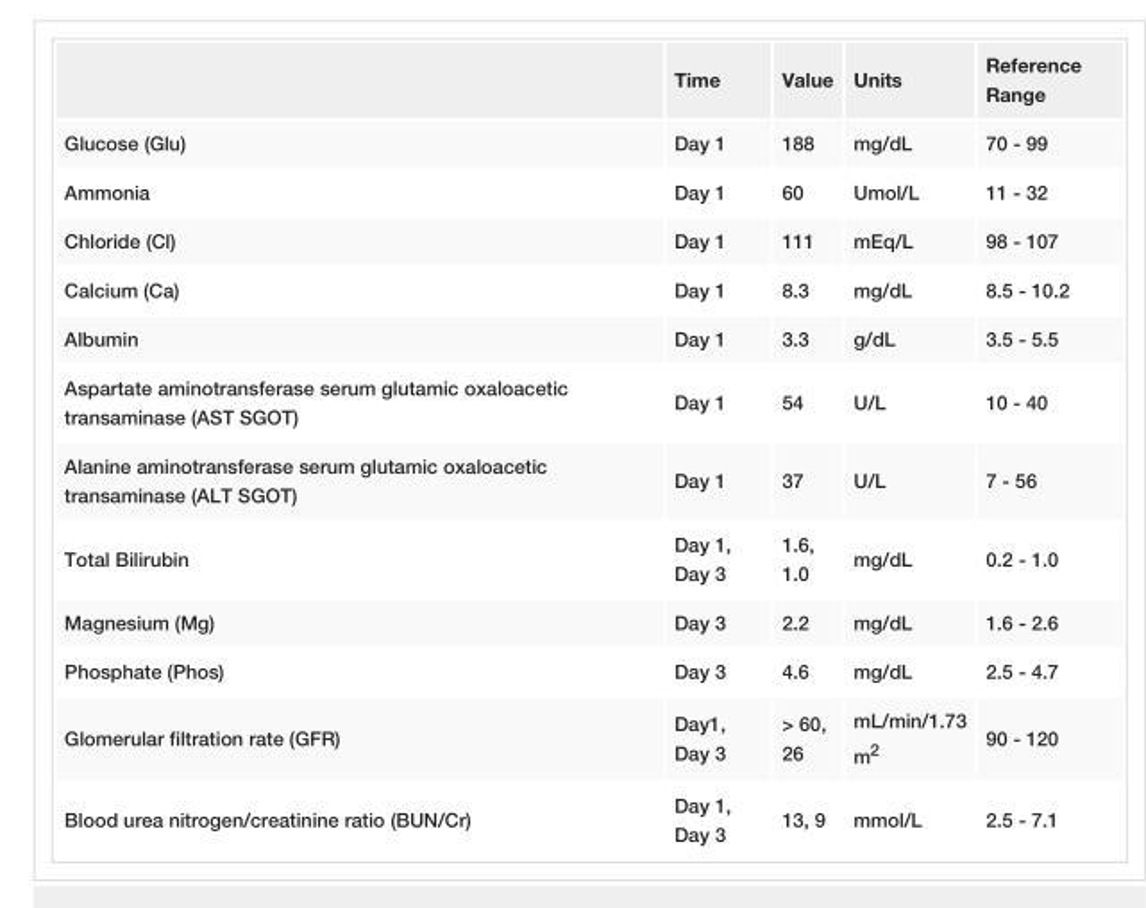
<table><thead><tr><td></td><td>Time</td><td>Value</td><td>Units</td><td>Reference Range</td></tr></thead><tbody><tr><td>Glucose (Glu)</td><td>Day 1</td><td>188</td><td>mg/dL</td><td>70 - 99</td></tr><tr><td>Ammonia</td><td>Day 1</td><td>60</td><td>Umol/L</td><td>11 - 32</td></tr><tr><td>Chloride (Cl)</td><td>Day 1</td><td>111</td><td>mEq/L</td><td>98 - 107</td></tr><tr><td>Calcium (Ca)</td><td>Day 1</td><td>8.3</td><td>mg/dL</td><td>8.5 - 10.2</td></tr><tr><td>Albumin</td><td>Day 1</td><td>3.3</td><td>g/dL</td><td>3.5 - 5.5</td></tr><tr><td>Aspartate aminotransferase serum glutamic oxaloacetic transaminase (AST SGOT)</td><td>Day 1</td><td>54</td><td>U/L</td><td>10 - 40</td></tr><tr><td>Alanine aminotransferase serum glutamic oxaloacetic transaminase (ALT SGOT)</td><td>Day 1</td><td>37</td><td>U/L</td><td>7 - 56</td></tr><tr><td>Total Bilirubin</td><td>Day 1, Day 3</td><td>1.6, 1.0</td><td>mg/dL</td><td>0.2 - 1.0</td></tr><tr><td>Magnesium (Mg)</td><td>Day 3</td><td>2.2</td><td>mg/dL</td><td>1.6 - 2.6</td></tr><tr><td>Phosphate (Phos)</td><td>Day 3</td><td>4.6</td><td>mg/dL</td><td>2.5 - 4.7</td></tr><tr><td>Glomerular filtration rate (GFR)</td><td>Day1, Day 3</td><td>&gt; 60, 26</td><td>mL/min/1.73 m<sup>2</sup></td><td>90 - 120</td></tr><tr><td>Blood urea nitrogen/creatinine ratio (BUN/Cr)</td><td>Day 1, Day 3</td><td>13, 9</td><td>mmol/L</td><td>2.5 - 7.1</td></tr></tbody></table>